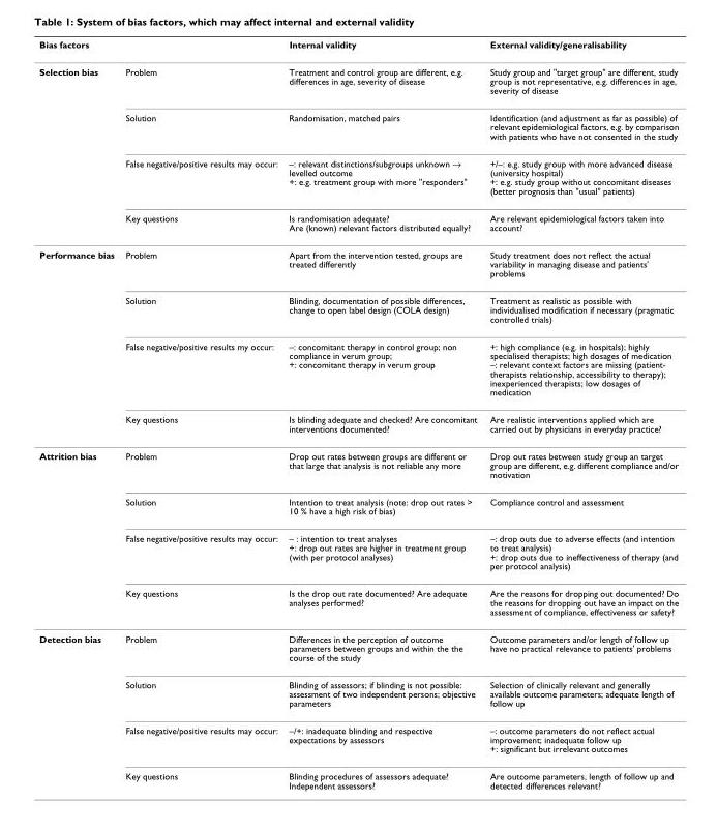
<table><thead><tr><td>Bias factors</td><td></td><td>Internal validity</td><td>External validity/generalisability</td></tr></thead><tbody><tr><td rowspan="4">Selection bias</td><td>Problem</td><td>Treatment and control group are different, e.g. differences in age, severity of disease</td><td>Study group and &quot;target group&quot; are different, study group is not representative, e.g. differences in age, severity of disease</td></tr><tr><td>Solution</td><td>Randomisation, matched pairs</td><td>Identification (and adjustment as far as possible) of relevant epidemiological factors, e.g. by comparison with patients who have not consented in the study</td></tr><tr><td>False negative/positive results may occur:</td><td>–: relevant distinctions/subgroups unknown → levelled outcome +: e.g. treatment group with more &quot;responders&quot;</td><td>+/–: e.g. study group with more advanced disease (university hospital) +: e.g. study group without concomitant diseases (better prognosis than &quot;usual&quot; patients)</td></tr><tr><td>Key questions</td><td>Is randomisation adequate? Are (known) relevant factors distributed equally?</td><td>Are relevant epidemiological factors taken into account?</td></tr><tr><td rowspan="4">Performance bias</td><td>Problem</td><td>Apart from the intervention tested, groups are treated differently</td><td>Study treatment does not reflect the actual variability in managing disease and patients&#x27; problems</td></tr><tr><td>Solution</td><td>Blinding, documentation of possible differences, change to open label design (COLA design)</td><td>Treatment as realistic as possible with individualised modification if necessary (pragmatic controlled trials)</td></tr><tr><td>False negative/positive results my occur:</td><td>–: concomitant therapy in control group; non compliance in verum group; +: concomitant therapy in verum group</td><td>+: high compliance (e.g. in hospitals); highly specialised therapists; high dosages of medication –: relevant context factors are missing (patient- therapists relationship, accessibility to therapy); inexperienced therapists; low dosages of medication</td></tr><tr><td>Key questions</td><td>Is blinding adequate and checked? Are concomitant interventions documented?</td><td>Are realistic interventions applied which are carried out by physicians in everyday practice?</td></tr><tr><td rowspan="4">Attrition bias</td><td>Problem</td><td>Drop out rates between groups are different or that large that analysis is not reliable any more</td><td>Drop out rates between study group an target group are different, e.g. different compliance and/or motivation</td></tr><tr><td>Solution</td><td>Intention to treat analysis (note: drop out rates &gt; 10 % have a high risk of bias)</td><td>Compliance control and assessment</td></tr><tr><td>False negative/positive results may occur:</td><td>– : intention to treat analyses +: drop out rates are higher in treatment group (with per protocol analyses)</td><td>–: drop outs due to adverse effects (and intention to treat analysis) +: drop outs due to ineffectiveness of therapy (and per protocol analysis)</td></tr><tr><td>Key questions</td><td>Is the drop out rate documented? Are adequate analyses performed?</td><td>Are the reasons for dropping out documented? Do the reasons for dropping out have an impact on the assessment of compliance, effectiveness or safety?</td></tr><tr><td rowspan="4">Detection bias</td><td>Problem</td><td>Differences in the perception of outcome parameters between groups and within the the course of the study</td><td>Outcome parameters and/or length of follow up have no practical relevance to patients&#x27; problems</td></tr><tr><td>Solution</td><td>Blinding of assessors; if blinding is not possible: assessment of two independent persons; objective parameters</td><td>Selection of clinically relevant and generally available outcome parameters; adequate length of follow up</td></tr><tr><td>False negative/positive results may occur:</td><td>–/+: inadequate blinding and respective expectations by assessors</td><td>–: outcome parameters do not reflect actual improvement; inadequate follow up +: significant but irrelevant outcomes</td></tr><tr><td>Key questions</td><td>Blinding procedures of assessors adequate? Independent assessors?</td><td>Are outcome parameters, length of follow up and detected differences relevant?</td></tr></tbody></table>